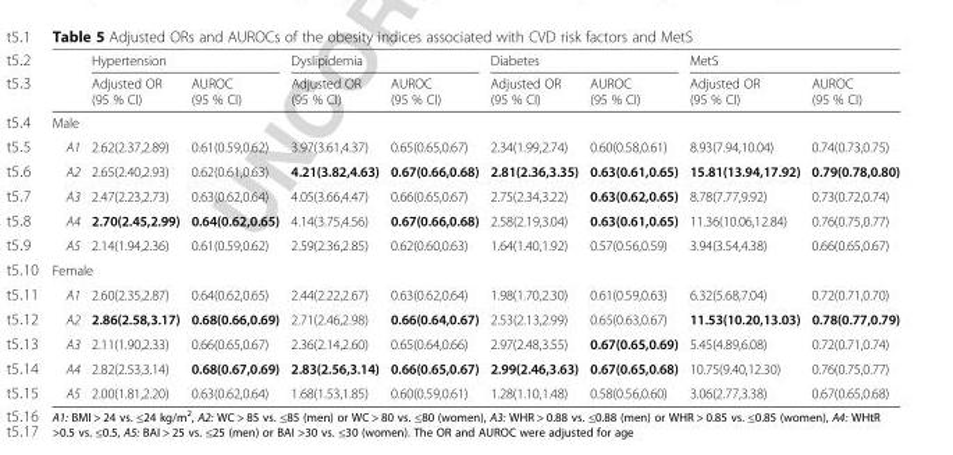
<table><thead><tr><td rowspan="2"></td><td colspan="2">Hypertension</td><td colspan="2">Dyslipidemia</td><td colspan="2">Diabetes</td><td colspan="2">MetS</td></tr><tr><td>Adjusted OR (95 % CI)</td><td>AUROC (95 % CI)</td><td>Adjusted OR (95 % CI)</td><td>AUROC (95 % CI)</td><td>Adjusted OR (95 % CI)</td><td>AUROC (95 % CI)</td><td>Adjusted OR (95 % CI)</td><td>AUROC (95 % CI)</td></tr></thead><tbody><tr><td colspan="9">Male</td></tr><tr><td>A1</td><td>2.62(2.37,2.89)</td><td>0.61(0.59,0.62)</td><td>3.97(3.61,4.37)</td><td>0.65(0.65,0.67)</td><td>2.34(1.99,2.74)</td><td>0.60(0.58,0.61)</td><td>8.93(7.94,10.04)</td><td>0.74(0.73,0.75)</td></tr><tr><td>A2</td><td>2.65(2.40,2.93)</td><td>0.62(0.61,0.63)</td><td>4.21(3.82,4.63)</td><td>0.67(0.66,0.68)</td><td>2.81(2.36,3.35)</td><td>0.63(0.61,0.65)</td><td>15.81(13.94,17.92)</td><td>0.79(0.78,0.80)</td></tr><tr><td>A3</td><td>2.47(2.23,2.73)</td><td>0.63(0.62,0.64)</td><td>4.05(3.66,4.47)</td><td>0.66(0.65,0.67)</td><td>2.75(2.34,3.22)</td><td>0.63(0.62,0.65)</td><td>8.78(7.77,9.92)</td><td>0.73(0.72,0.74)</td></tr><tr><td>A4</td><td>2.70(2.45,2.99)</td><td>0.64(0.62,0.65)</td><td>4.14(3.75,4.56)</td><td>0.67(0.66,0.68)</td><td>2.58(2.19,3.04)</td><td>0.63(0.61,0.65)</td><td>11.36(10.06,12.84)</td><td>0.76(0.75,0.77)</td></tr><tr><td>A5</td><td>2.14(1.94,2.36)</td><td>0.61(0.59,0.62)</td><td>2.59(2.36,2.85)</td><td>0.62(0.60,0.63)</td><td>1.64(1.40,1.92)</td><td>0.57(0.56,0.59)</td><td>3.94(3.54,4.38)</td><td>0.66(0.65,0.67)</td></tr><tr><td colspan="9">Female</td></tr><tr><td>A1</td><td>2.60(2.35,2.87)</td><td>0.64(0.62,0.65)</td><td>2.44(2.22,2.67)</td><td>0.63(0.62,0.64)</td><td>1.98(1.70,2.30)</td><td>0.61(0.59,0.63)</td><td>6.32(5.68,7.04)</td><td>0.72(0.71,0.70)</td></tr><tr><td>A2</td><td>2.86(2.58,3.17)</td><td>0.68(0.66,0.69)</td><td>2.71(2.46,2.98)</td><td>0.66(0.64,0.67)</td><td>2.53(2.13,2.99)</td><td>0.65(0.63,0.67)</td><td>11.53(10.20,13.03)</td><td>0.78(0.77,0.79)</td></tr><tr><td>A3</td><td>2.11(1.90,2.33)</td><td>0.66(0.65,0.67)</td><td>2.36(2.14,2.60)</td><td>0.65(0.64,0.66)</td><td>2.97(2.48,3.55)</td><td>0.67(0.65,0.69)</td><td>5.45(4.89,6.08)</td><td>0.72(0.71,0.74)</td></tr><tr><td>A4</td><td>2.82(2.53,3.14)</td><td>0.68(0.67,0.69)</td><td>2.83(2.56,3.14)</td><td>0.66(0.65,0.67)</td><td>2.99(2.46,3.63)</td><td>0.67(0.65,0.68)</td><td>10.75(9.40,12.30)</td><td>0.76(0.75,0.77)</td></tr><tr><td>A5</td><td>2.00(1.81,2.20)</td><td>0.63(0.62,0.64)</td><td>1.68(1.53,1.85)</td><td>0.60(0.59,0.61)</td><td>1.28(1.10,1.48)</td><td>0.58(0.56,0.60)</td><td>3.06(2.77,3.38)</td><td>0.67(0.65,0.68)</td></tr></tbody></table>